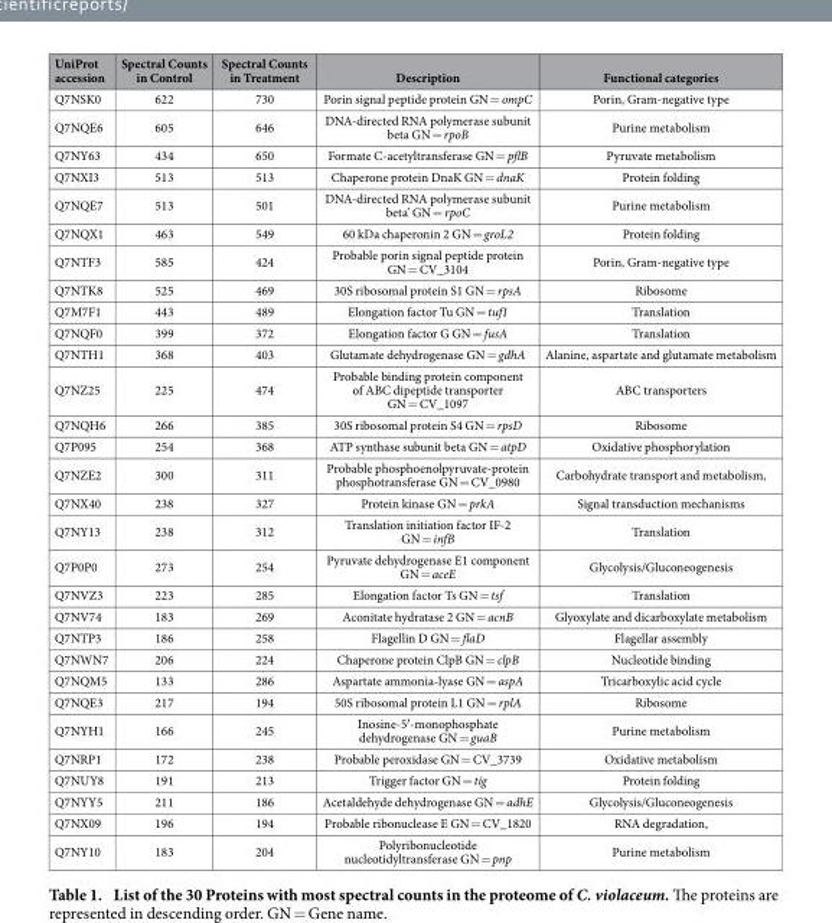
<table><thead><tr><td>UniProt accession</td><td>Spectral Counts in Control</td><td>Spectral Counts in Treatment</td><td>Description</td><td>Functional categories</td></tr></thead><tbody><tr><td>Q7NSK0</td><td>622</td><td>730</td><td>Porin signal peptide protein GN = ompC</td><td>Porin, Gram-negative type</td></tr><tr><td>Q7NQE6</td><td>605</td><td>646</td><td>DNA-directed RNA polymerase subunit beta GN = rpoB</td><td>Purine metabolism</td></tr><tr><td>Q7NY63</td><td>434</td><td>650</td><td>Formate C-acetyltransferase GN = pflB</td><td>Pyruvate metabolism</td></tr><tr><td>Q7NXI3</td><td>513</td><td>513</td><td>Chaperone protein DnaK GN = dnaK</td><td>Protein folding</td></tr><tr><td>Q7NQE7</td><td>513</td><td>501</td><td>DNA-directed RNA polymerase subunit beta’ GN = rpoC</td><td>Purine metabolism</td></tr><tr><td>Q7NQX1</td><td>463</td><td>549</td><td>60 kDa chaperonin 2 GN = groL2</td><td>Protein folding</td></tr><tr><td>Q7NTF3</td><td>585</td><td>424</td><td>Probable porin signal peptide protein GN = CV_3104</td><td>Porin, Gram-negative type</td></tr><tr><td>Q7NTK8</td><td>525</td><td>469</td><td>30S ribosomal protein S1 GN = rpsA</td><td>Ribosome</td></tr><tr><td>Q7M7F1</td><td>443</td><td>489</td><td>Elongation factor Tu GN = tuf1</td><td>Translation</td></tr><tr><td>Q7NQF0</td><td>399</td><td>372</td><td>Elongation factor G GN = fusA</td><td>Translation</td></tr><tr><td>Q7NTH1</td><td>368</td><td>403</td><td>Glutamate dehydrogenase GN = gdhA</td><td>Alanine, aspartate and glutamate metabolism</td></tr><tr><td>Q7NZ25</td><td>225</td><td>474</td><td>Probable binding protein component of ABC dipeptide transporter GN = CV_1097</td><td>ABC transporters</td></tr><tr><td>Q7NQH6</td><td>266</td><td>385</td><td>30S ribosomal protein S4 GN = rpsD</td><td>Ribosome</td></tr><tr><td>Q7P095</td><td>254</td><td>368</td><td>ATP synthase subunit beta GN = atpD</td><td>Oxidative phosphorylation</td></tr><tr><td>Q7NZE2</td><td>300</td><td>311</td><td>Probable phosphoenolpyruvate-protein phosphotransferase GN = CV_0980</td><td>Carbohydrate transport and metabolism,</td></tr><tr><td>Q7NX40</td><td>238</td><td>327</td><td>Protein kinase GN = prkA</td><td>Signal transduction mechanisms</td></tr><tr><td>Q7NY13</td><td>238</td><td>312</td><td>Translation initiation factor IF-2 GN = infB</td><td>Translation</td></tr><tr><td>Q7P0P0</td><td>273</td><td>254</td><td>Pyruvate dehydrogenase E1 component GN = aceE</td><td>Glycolysis/Gluconeogenesis</td></tr><tr><td>Q7NVZ3</td><td>223</td><td>285</td><td>Elongation factor Ts GN = tsf</td><td>Translation</td></tr><tr><td>Q7NV74</td><td>183</td><td>269</td><td>Aconitate hydratase 2 GN = acnB</td><td>Glyoxylate and dicarboxylate metabolism</td></tr><tr><td>Q7NTP3</td><td>186</td><td>258</td><td>Flagellin D GN = flaD</td><td>Flagellar assembly</td></tr><tr><td>Q7NWN7</td><td>206</td><td>224</td><td>Chaperone protein ClpB GN = clpB</td><td>Nucleotide binding</td></tr><tr><td>Q7NQM5</td><td>133</td><td>286</td><td>Aspartate ammonia-lyase GN = aspA</td><td>Tricarboxylic acid cycle</td></tr><tr><td>Q7NQE3</td><td>217</td><td>194</td><td>50S ribosomal protein L1 GN = rplA</td><td>Ribosome</td></tr><tr><td>Q7NYH1</td><td>166</td><td>245</td><td>Inosine-5′ -monophosphate dehydrogenase GN = guaB</td><td>Purine metabolism</td></tr><tr><td>Q7NRP1</td><td>172</td><td>238</td><td>Probable peroxidase GN = CV_3739</td><td>Oxidative metabolism</td></tr><tr><td>Q7NUY8</td><td>191</td><td>213</td><td>Trigger factor GN = tig</td><td>Protein folding</td></tr><tr><td>Q7NYY5</td><td>211</td><td>186</td><td>Acetaldehyde dehydrogenase GN = adhE</td><td>Glycolysis/Gluconeogenesis</td></tr><tr><td>Q7NX09</td><td>196</td><td>194</td><td>Probable ribonuclease E GN = CV_1820</td><td>RNA degradation,</td></tr><tr><td>Q7NY10</td><td>183</td><td>204</td><td>Polyribonucleotide nucleotidyltransferase GN = pnp</td><td>Purine metabolism</td></tr></tbody></table>